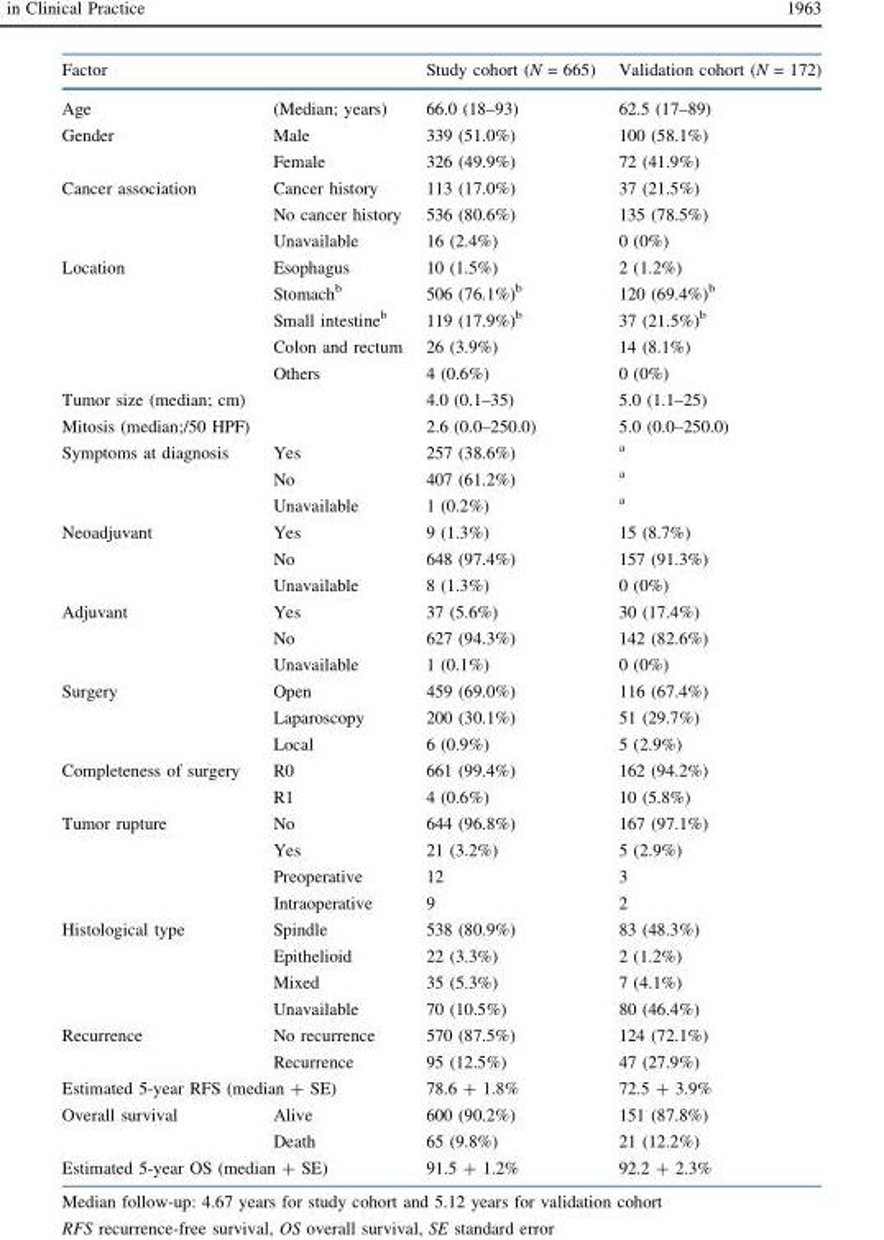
<table><thead><tr><td colspan="2">Factor</td><td rowspan="2">Study cohort (N = 665) 66.0 (18–93)</td><td rowspan="2">Validation cohort (N = 172) 62.5 (17–89)</td></tr><tr><td>Age</td><td>(Median; years)</td></tr></thead><tbody><tr><td rowspan="2">Gender</td><td>Male</td><td>339 (51.0%)</td><td>100 (58.1%)</td></tr><tr><td>Female</td><td>326 (49.9%)</td><td>72 (41.9%)</td></tr><tr><td rowspan="3">Cancer association</td><td>Cancer history</td><td>113 (17.0%)</td><td>37 (21.5%)</td></tr><tr><td>No cancer history</td><td>536 (80.6%)</td><td>135 (78.5%)</td></tr><tr><td>Unavailable</td><td>16 (2.4%)</td><td>0 (0%)</td></tr><tr><td rowspan="5">Location</td><td>Esophagus</td><td>10 (1.5%)</td><td>2 (1.2%)</td></tr><tr><td>Stomach<sup>b</sup></td><td>506 (76.1%)<sup>b</sup></td><td>120 (69.4%)<sup>b</sup></td></tr><tr><td>Small intestine<sup>b</sup></td><td>119 (17.9%)<sup>b</sup></td><td>37 (21.5%)<sup>b</sup></td></tr><tr><td>Colon and rectum</td><td>26 (3.9%)</td><td>14 (8.1%)</td></tr><tr><td>Others</td><td>4 (0.6%)</td><td>0 (0%)</td></tr><tr><td>Tumor size (median; cm)</td><td></td><td>4.0 (0.1–35)</td><td>5.0 (1.1–25)</td></tr><tr><td>Mitosis (median;/50 HPF)</td><td></td><td>2.6 (0.0–250.0)</td><td>5.0 (0.0–250.0)</td></tr><tr><td rowspan="3">Symptoms at diagnosis</td><td>Yes</td><td>257 (38.6%)</td><td><sup>a</sup></td></tr><tr><td>No</td><td>407 (61.2%)</td><td><sup>a</sup></td></tr><tr><td>Unavailable</td><td>1 (0.2%)</td><td><sup>a</sup></td></tr><tr><td rowspan="3">Neoadjuvant</td><td>Yes</td><td>9 (1.3%)</td><td>15 (8.7%)</td></tr><tr><td>No</td><td>648 (97.4%)</td><td>157 (91.3%)</td></tr><tr><td>Unavailable</td><td>8 (1.3%)</td><td>0 (0%)</td></tr><tr><td rowspan="3">Adjuvant</td><td>Yes</td><td>37 (5.6%)</td><td>30 (17.4%)</td></tr><tr><td>No</td><td>627 (94.3%)</td><td>142 (82.6%)</td></tr><tr><td>Unavailable</td><td>1 (0.1%)</td><td>0 (0%)</td></tr><tr><td rowspan="3">Surgery</td><td>Open</td><td>459 (69.0%)</td><td>116 (67.4%)</td></tr><tr><td>Laparoscopy</td><td>200 (30.1%)</td><td>51 (29.7%)</td></tr><tr><td>Local</td><td>6 (0.9%)</td><td>5 (2.9%)</td></tr><tr><td rowspan="2">Completeness of surgery</td><td>R0</td><td>661 (99.4%)</td><td>162 (94.2%)</td></tr><tr><td>R1</td><td>4 (0.6%)</td><td>10 (5.8%)</td></tr><tr><td rowspan="4">Tumor rupture</td><td>No</td><td>644 (96.8%)</td><td>167 (97.1%)</td></tr><tr><td>Yes</td><td>21 (3.2%)</td><td>5 (2.9%)</td></tr><tr><td>Preoperative</td><td>12</td><td>3</td></tr><tr><td>Intraoperative</td><td>9</td><td>2</td></tr><tr><td rowspan="4">Histological type</td><td>Spindle</td><td>538 (80.9%)</td><td>83 (48.3%)</td></tr><tr><td>Epithelioid</td><td>22 (3.3%)</td><td>2 (1.2%)</td></tr><tr><td>Mixed</td><td>35 (5.3%)</td><td>7 (4.1%)</td></tr><tr><td>Unavailable</td><td>70 (10.5%)</td><td>80 (46.4%)</td></tr><tr><td rowspan="2">Recurrence</td><td>No recurrence</td><td>570 (87.5%)</td><td>124 (72.1%)</td></tr><tr><td>Recurrence</td><td>95 (12.5%)</td><td>47 (27.9%)</td></tr><tr><td colspan="2">Estimated 5-year RFS (median + SE)</td><td>78.6 + 1.8%</td><td>72.5 + 3.9%</td></tr><tr><td rowspan="2">Overall survival</td><td>Alive</td><td>600 (90.2%)</td><td>151 (87.8%)</td></tr><tr><td>Death</td><td>65 (9.8%)</td><td>21 (12.2%)</td></tr><tr><td colspan="2">Estimated 5-year OS (median + SE)</td><td>91.5 + 1.2%</td><td>92.2 + 2.3%</td></tr></tbody></table>